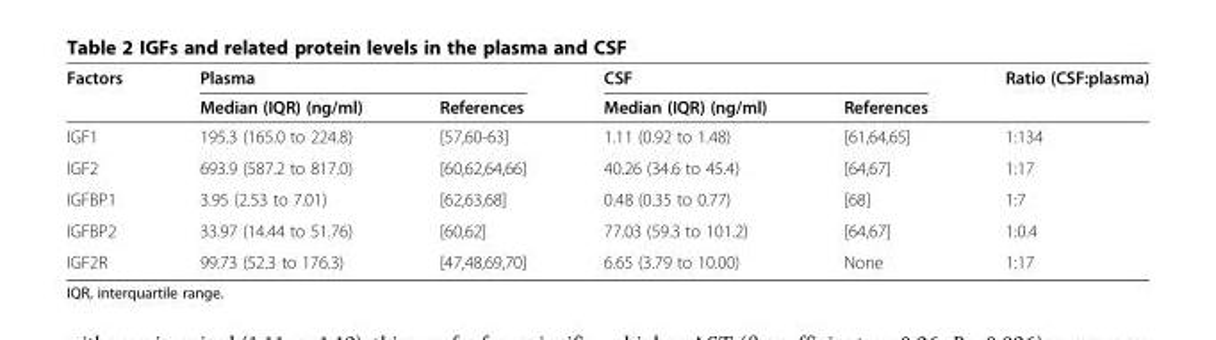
<table><thead><tr><td rowspan="2">Factors</td><td colspan="2">Plasma</td><td colspan="2">CSF</td><td rowspan="2">Ratio (CSF:plasma)</td></tr><tr><td>Median (IQR) (ng/ml)</td><td>References</td><td>Median (IQR) (ng/ml)</td><td>References</td></tr></thead><tbody><tr><td>IGF1</td><td>195.3 (165.0 to 224.8)</td><td>[57,60-63]</td><td>1.11 (0.92 to 1.48)</td><td>[61,64,65]</td><td>1:134</td></tr><tr><td>IGF2</td><td>693.9 (587.2 to 817.0)</td><td>[60,62,64,66]</td><td>40.26 (34.6 to 45.4)</td><td>[64,67]</td><td>1:17</td></tr><tr><td>IGFBP1</td><td>3.95 (2.53 to 7.01)</td><td>[62,63,68]</td><td>0.48 (0.35 to 0.77)</td><td>[68]</td><td>1:7</td></tr><tr><td>IGFBP2</td><td>33.97 (14.44 to 51.76)</td><td>[60,62]</td><td>77.03 (59.3 to 101.2)</td><td>[64,67]</td><td>1:0.4</td></tr><tr><td>IGF2R</td><td>99.73 (52.3 to 176.3)</td><td>[47,48,69,70]</td><td>6.65 (3.79 to 10.00)</td><td>None</td><td>1:17</td></tr></tbody></table>